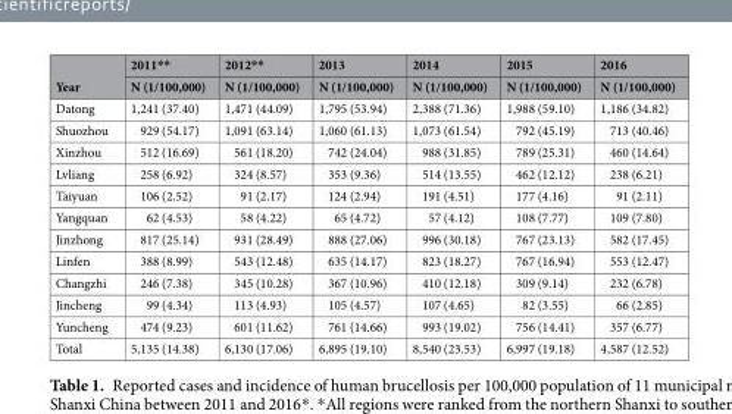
<table><thead><tr><td rowspan="2">Year</td><td rowspan="2">2011** N (1/100,000)</td><td rowspan="2">2012** N (1/100,000)</td><td rowspan="2">2013 N (1/100,000)</td><td rowspan="2">2014 N (1/100,000)</td><td rowspan="2">2015 N (1/100,000)</td><td rowspan="2">2016 N (1/100,000)</td></tr><tr></tr></thead><tbody><tr><td>Datong</td><td>1,241 (37.40)</td><td>1,471 (44.09)</td><td>1,795 (53.94)</td><td>2,388 (71.36)</td><td>1,988 (59.10)</td><td>1,186 (34.82)</td></tr><tr><td>Shuozhou</td><td>929 (54.17)</td><td>1,091 (63.14)</td><td>1,060 (61.13)</td><td>1,073 (61.54)</td><td>792 (45.19)</td><td>713 (40.46)</td></tr><tr><td>Xinzhou</td><td>512 (16.69)</td><td>561 (18.20)</td><td>742 (24.04)</td><td>988 (31.85)</td><td>789 (25.31)</td><td>460 (14.64)</td></tr><tr><td>Lvliang</td><td>258 (6.92)</td><td>324 (8.57)</td><td>353 (9.36)</td><td>514 (13.55)</td><td>462 (12.12)</td><td>238 (6.21)</td></tr><tr><td>Taiyuan</td><td>106 (2.52)</td><td>91 (2.17)</td><td>124 (2.94)</td><td>191 (4.51)</td><td>177 (4.16)</td><td>91 (2.11)</td></tr><tr><td>Yangquan</td><td>62 (4.53)</td><td>58 (4.22)</td><td>65 (4.72)</td><td>57 (4.12)</td><td>108 (7.77)</td><td>109 (7.80)</td></tr><tr><td>Jinzhong</td><td>817 (25.14)</td><td>931 (28.49)</td><td>888 (27.06)</td><td>996 (30.18)</td><td>767 (23.13)</td><td>582 (17.45)</td></tr><tr><td>Linfen</td><td>388 (8.99)</td><td>543 (12.48)</td><td>635 (14.17)</td><td>823 (18.27)</td><td>767 (16.94)</td><td>553 (12.47)</td></tr><tr><td>Changzhi</td><td>246 (7.38)</td><td>345 (10.28)</td><td>367 (10.96)</td><td>410 (12.18)</td><td>309 (9.14)</td><td>232 (6.78)</td></tr><tr><td>Jincheng</td><td>99 (4.34)</td><td>113 (4.93)</td><td>105 (4.57)</td><td>107 (4.65)</td><td>82 (3.55)</td><td>66 (2.85)</td></tr><tr><td>Yuncheng</td><td>474 (9.23)</td><td>601 (11.62)</td><td>761 (14.66)</td><td>993 (19.02)</td><td>756 (14.41)</td><td>357 (6.77)</td></tr><tr><td>Total</td><td>5,135 (14.38)</td><td>6,130 (17.06)</td><td>6,895 (19.10)</td><td>8,540 (23.53)</td><td>6,997 (19.18)</td><td>4,587 (12.52)</td></tr></tbody></table>